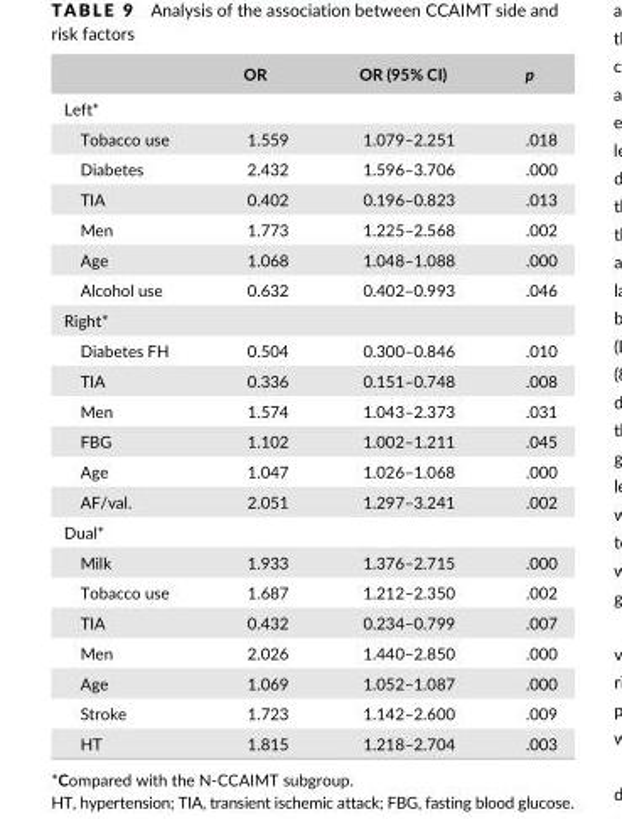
<table><thead><tr><td></td><td>OR</td><td>OR (95% CI)</td><td>p</td></tr></thead><tbody><tr><td colspan="4">Left*</td></tr><tr><td>Tobacco use</td><td>1.559</td><td>1.079–2.251</td><td>.018</td></tr><tr><td>Diabetes</td><td>2.432</td><td>1.596–3.706</td><td>.000</td></tr><tr><td>TIA</td><td>0.402</td><td>0.196–0.823</td><td>.013</td></tr><tr><td>Men</td><td>1.773</td><td>1.225–2.568</td><td>.002</td></tr><tr><td>Age</td><td>1.068</td><td>1.048–1.088</td><td>.000</td></tr><tr><td>Alcohol use</td><td>0.632</td><td>0.402–0.993</td><td>.046</td></tr><tr><td colspan="4">Right*</td></tr><tr><td>Diabetes FH</td><td>0.504</td><td>0.300–0.846</td><td>.010</td></tr><tr><td>TIA</td><td>0.336</td><td>0.151–0.748</td><td>.008</td></tr><tr><td>Men</td><td>1.574</td><td>1.043–2.373</td><td>.031</td></tr><tr><td>FBG</td><td>1.102</td><td>1.002–1.211</td><td>.045</td></tr><tr><td>Age</td><td>1.047</td><td>1.026–1.068</td><td>.000</td></tr><tr><td>AF/val.</td><td>2.051</td><td>1.297–3.241</td><td>.002</td></tr><tr><td colspan="4">Dual*</td></tr><tr><td>Milk</td><td>1.933</td><td>1.376–2.715</td><td>.000</td></tr><tr><td>Tobacco use</td><td>1.687</td><td>1.212–2.350</td><td>.002</td></tr><tr><td>TIA</td><td>0.432</td><td>0.234–0.799</td><td>.007</td></tr><tr><td>Men</td><td>2.026</td><td>1.440–2.850</td><td>.000</td></tr><tr><td>Age</td><td>1.069</td><td>1.052–1.087</td><td>.000</td></tr><tr><td>Stroke</td><td>1.723</td><td>1.142–2.600</td><td>.009</td></tr><tr><td>HT</td><td>1.815</td><td>1.218–2.704</td><td>.003</td></tr></tbody></table>